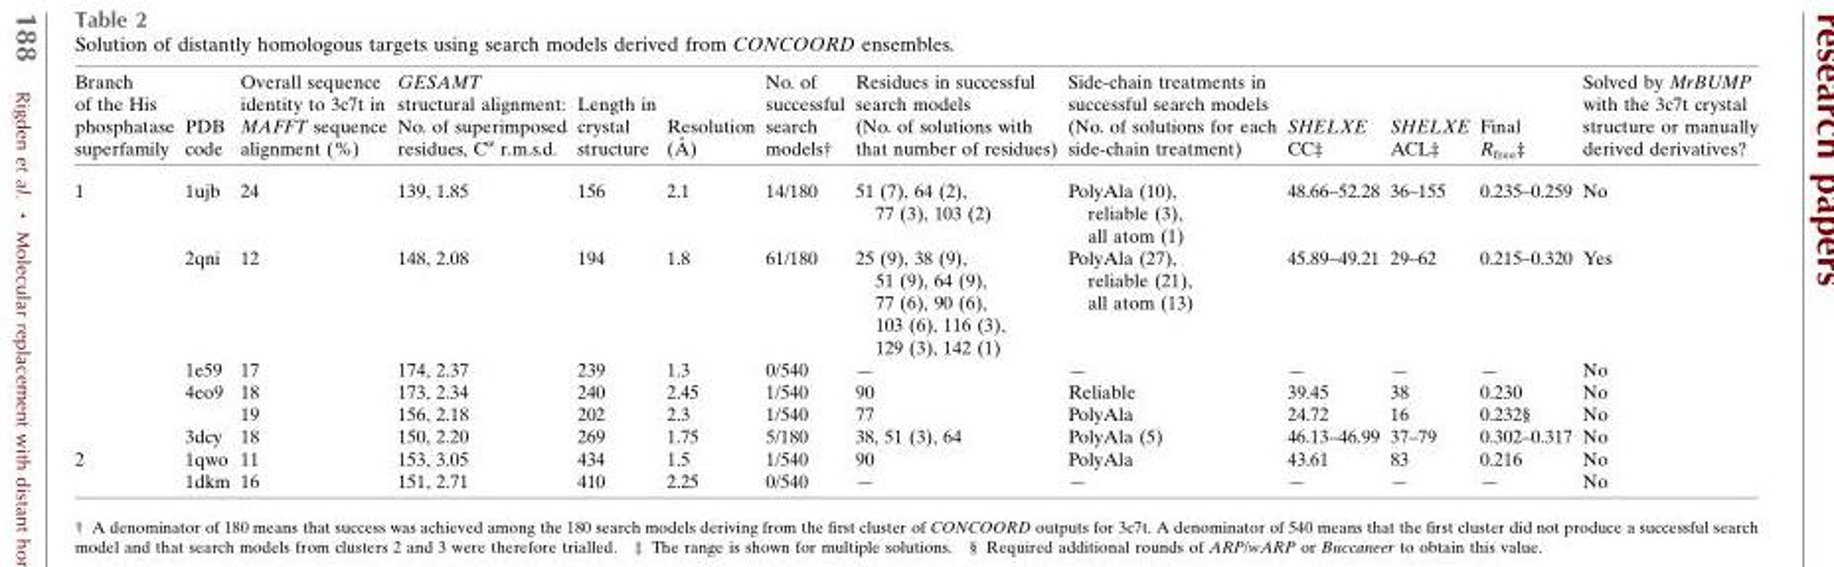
<table><thead><tr><td>Branch of the His phosphatase superfamily</td><td>PDB code</td><td>Overall sequence identity to 3c7t in MAFFT sequence alignment (%)</td><td>GESAMT structural alignment: No. of superimposed residues, C<sup>α</sup> r.m.s.d.</td><td>Length in crystal structure</td><td>Resolution (A˚ )</td><td>No. of successful search models†</td><td>Residues in successful search models (No. of solutions with that number of residues)</td><td>Side-chain treatments in successful search models (No. of solutions for each side-chain treatment)</td><td>SHELXE CC‡</td><td>SHELXE ACL‡</td><td>Final Rfree‡</td><td>Solved by MrBUMP with the 3c7t crystal structure or manually derived derivatives?</td></tr></thead><tbody><tr><td rowspan="6">1</td><td>1ujb</td><td>24</td><td>139, 1.85</td><td>156</td><td>2.1</td><td>14/180</td><td>51 (7), 64 (2), 77 (3), 103 (2)</td><td>PolyAla (10), reliable (3), all atom (1)</td><td>48.66–52.28</td><td>36–155</td><td>0.235–0.259</td><td>No</td></tr><tr><td>2qni</td><td>12</td><td>148, 2.08</td><td>194</td><td>1.8</td><td>61/180</td><td>25 (9), 38 (9), 51 (9), 64 (9), 77 (6), 90 (6), 103 (6), 116 (3), 129 (3), 142 (1)</td><td>PolyAla (27), reliable (21), all atom (13)</td><td>45.89–49.21</td><td>29–62</td><td>0.215–0.320</td><td>Yes</td></tr><tr><td>1e59</td><td>17</td><td>174, 2.37</td><td>239</td><td>1.3</td><td>0/540</td><td>—</td><td>—</td><td>—</td><td>—</td><td>—</td><td>No</td></tr><tr><td>4eo9</td><td>18</td><td>173, 2.34</td><td>240</td><td>2.45</td><td>1/540</td><td>90</td><td>Reliable</td><td>39.45</td><td>38</td><td>0.230</td><td>No</td></tr><tr><td></td><td>19</td><td>156, 2.18</td><td>202</td><td>2.3</td><td>1/540</td><td>77</td><td>PolyAla</td><td>24.72</td><td>16</td><td>0.232§</td><td>No</td></tr><tr><td>3dcy</td><td>18</td><td>150, 2.20</td><td>269</td><td>1.75</td><td>5/180</td><td>38, 51 (3), 64</td><td>PolyAla (5)</td><td>46.13–46.99</td><td>37–79</td><td>0.302–0.317</td><td>No</td></tr><tr><td rowspan="2">2</td><td>1qwo</td><td>11</td><td>153, 3.05</td><td>434</td><td>1.5</td><td>1/540</td><td>90</td><td>PolyAla</td><td>43.61</td><td>83</td><td>0.216</td><td>No</td></tr><tr><td>1dkm</td><td>16</td><td>151, 2.71</td><td>410</td><td>2.25</td><td>0/540</td><td>—</td><td>—</td><td>—</td><td>—</td><td>—</td><td>No</td></tr></tbody></table>